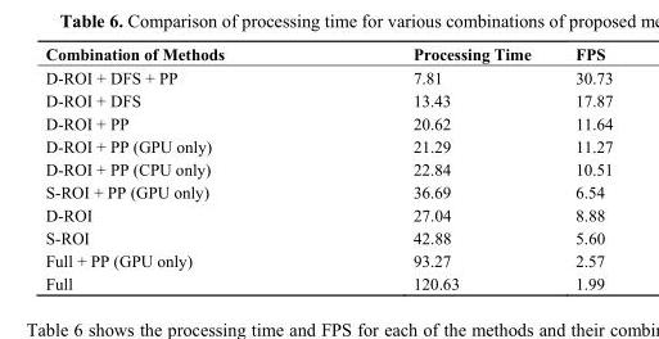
<table><thead><tr><td>Combination of Methods</td><td>Processing Time</td><td>FPS</td></tr></thead><tbody><tr><td>D-ROI + DFS + PP</td><td>7.81</td><td>30.73</td></tr><tr><td>D-ROI + DFS</td><td>13.43</td><td>17.87</td></tr><tr><td>D-ROI + PP</td><td>20.62</td><td>11.64</td></tr><tr><td>D-ROI + PP (GPU only)</td><td>21.29</td><td>11.27</td></tr><tr><td>D-ROI + PP (CPU only)</td><td>22.84</td><td>10.51</td></tr><tr><td>S-ROI + PP (GPU only)</td><td>36.69</td><td>6.54</td></tr><tr><td>D-ROI</td><td>27.04</td><td>8.88</td></tr><tr><td>S-ROI</td><td>42.88</td><td>5.60</td></tr><tr><td>Full + PP (GPU only)</td><td>93.27</td><td>2.57</td></tr><tr><td>Full</td><td>120.63</td><td>1.99</td></tr></tbody></table>